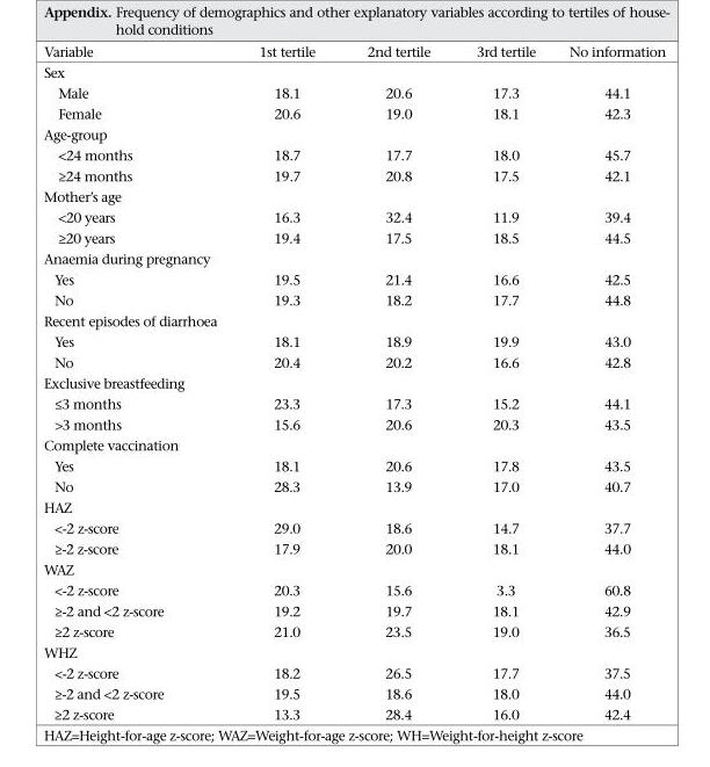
<table><thead><tr><td>Variable</td><td>1st tertile</td><td>2nd tertile</td><td>3rd tertile</td><td>No information</td></tr></thead><tbody><tr><td colspan="5">Sex</td></tr><tr><td>Male</td><td>18.1</td><td>20.6</td><td>17.3</td><td>44.1</td></tr><tr><td>Female</td><td>20.6</td><td>19.0</td><td>18.1</td><td>42.3</td></tr><tr><td colspan="5">Age-group</td></tr><tr><td>&lt;24 months</td><td>18.7</td><td>17.7</td><td>18.0</td><td>45.7</td></tr><tr><td>≥24 months</td><td>19.7</td><td>20.8</td><td>17.5</td><td>42.1</td></tr><tr><td colspan="5">Mother’s age</td></tr><tr><td>&lt;20 years</td><td>16.3</td><td>32.4</td><td>11.9</td><td>39.4</td></tr><tr><td>≥20 years</td><td>19.4</td><td>17.5</td><td>18.5</td><td>44.5</td></tr><tr><td colspan="5">Anaemia during pregnancy</td></tr><tr><td>Yes</td><td>19.5</td><td>21.4</td><td>16.6</td><td>42.5</td></tr><tr><td>No</td><td>19.3</td><td>18.2</td><td>17.7</td><td>44.8</td></tr><tr><td colspan="5">Recent episodes of diarrhoea</td></tr><tr><td>Yes</td><td>18.1</td><td>18.9</td><td>19.9</td><td>43.0</td></tr><tr><td>No</td><td>20.4</td><td>20.2</td><td>16.6</td><td>42.8</td></tr><tr><td colspan="5">Exclusive breastfeeding</td></tr><tr><td>≤3 months</td><td>23.3</td><td>17.3</td><td>15.2</td><td>44.1</td></tr><tr><td>&gt;3 months</td><td>15.6</td><td>20.6</td><td>20.3</td><td>43.5</td></tr><tr><td colspan="5">Complete vaccination</td></tr><tr><td>Yes</td><td>18.1</td><td>20.6</td><td>17.8</td><td>43.5</td></tr><tr><td>No</td><td>28.3</td><td>13.9</td><td>17.0</td><td>40.7</td></tr><tr><td colspan="5">HAZ</td></tr><tr><td>&lt;-2 z-score</td><td>29.0</td><td>18.6</td><td>14.7</td><td>37.7</td></tr><tr><td>≥-2 z-score</td><td>17.9</td><td>20.0</td><td>18.1</td><td>44.0</td></tr><tr><td colspan="5">WAZ</td></tr><tr><td>&lt;-2 z-score</td><td>20.3</td><td>15.6</td><td>3.3</td><td>60.8</td></tr><tr><td>≥-2 and &lt;2 z-score</td><td>19.2</td><td>19.7</td><td>18.1</td><td>42.9</td></tr><tr><td>≥2 z-score</td><td>21.0</td><td>23.5</td><td>19.0</td><td>36.5</td></tr><tr><td colspan="5">WHZ</td></tr><tr><td>&lt;-2 z-score</td><td>18.2</td><td>26.5</td><td>17.7</td><td>37.5</td></tr><tr><td>≥-2 and &lt;2 z-score</td><td>19.5</td><td>18.6</td><td>18.0</td><td>44.0</td></tr><tr><td>≥2 z-score</td><td>13.3</td><td>28.4</td><td>16.0</td><td>42.4</td></tr></tbody></table>